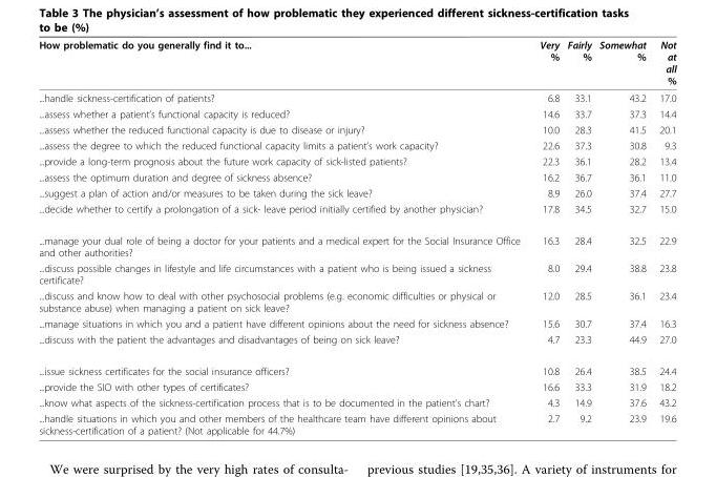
<table><thead><tr><td>How problematic do you generally find it to...</td><td>Very %</td><td>Fairly %</td><td>Somewhat %</td><td>Not at all %</td></tr></thead><tbody><tr><td>...handle sickness-certification of patients?</td><td>6.8</td><td>33.1</td><td>43.2</td><td>17.0</td></tr><tr><td>...assess whether a patient’s functional capacity is reduced?</td><td>14.6</td><td>33.7</td><td>37.3</td><td>14.4</td></tr><tr><td>...assess whether the reduced functional capacity is due to disease or injury?</td><td>10.0</td><td>28.3</td><td>41.5</td><td>20.1</td></tr><tr><td>...assess the degree to which the reduced functional capacity limits a patient’s work capacity?</td><td>22.6</td><td>37.3</td><td>30.8</td><td>9.3</td></tr><tr><td>...provide a long-term prognosis about the future work capacity of sick-listed patients?</td><td>22.3</td><td>36.1</td><td>28.2</td><td>13.4</td></tr><tr><td>...assess the optimum duration and degree of sickness absence?</td><td>16.2</td><td>36.7</td><td>36.1</td><td>11.0</td></tr><tr><td>...suggest a plan of action and/or measures to be taken during the sick leave?</td><td>8.9</td><td>26.0</td><td>37.4</td><td>27.7</td></tr><tr><td>...decide whether to certify a prolongation of a sick- leave period initially certified by another physician?</td><td>17.8</td><td>34.5</td><td>32.7</td><td>15.0</td></tr><tr><td>...manage your dual role of being a doctor for your patients and a medical expert for the Social Insurance Office and other authorities?</td><td>16.3</td><td>28.4</td><td>32.5</td><td>22.9</td></tr><tr><td>...discuss possible changes in lifestyle and life circumstances with a patient who is being issued a sickness certificate?</td><td>8.0</td><td>29.4</td><td>38.8</td><td>23.8</td></tr><tr><td>...discuss and know how to deal with other psychosocial problems (e.g. economic difficulties or physical or substance abuse) when managing a patient on sick leave?</td><td>12.0</td><td>28.5</td><td>36.1</td><td>23.4</td></tr><tr><td>...manage situations in which you and a patient have different opinions about the need for sickness absence?</td><td>15.6</td><td>30.7</td><td>37.4</td><td>16.3</td></tr><tr><td>...discuss with the patient the advantages and disadvantages of being on sick leave?</td><td>4.7</td><td>23.3</td><td>44.9</td><td>27.0</td></tr><tr><td>...issue sickness certificates for the social insurance officers?</td><td>10.8</td><td>26.4</td><td>38.5</td><td>24.4</td></tr><tr><td>...provide the SIO with other types of certificates?</td><td>16.6</td><td>33.3</td><td>31.9</td><td>18.2</td></tr><tr><td>...know what aspects of the sickness-certification process that is to be documented in the patient’s chart?</td><td>4.3</td><td>14.9</td><td>37.6</td><td>43.2</td></tr><tr><td>...handle situations in which you and other members of the healthcare team have different opinions about sickness-certification of a patient? (Not applicable for 44.7%)</td><td>2.7</td><td>9.2</td><td>23.9</td><td>19.6</td></tr></tbody></table>